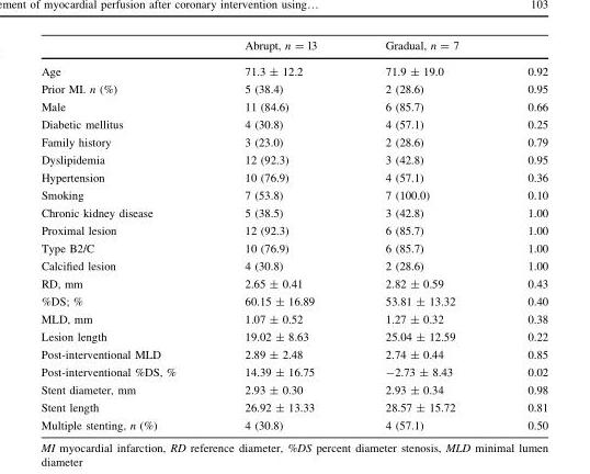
<table><thead><tr><td></td><td>Abrupt, n = l3</td><td>Gradual, n = 7</td><td></td></tr></thead><tbody><tr><td>Age</td><td>71.3 ± 12.2</td><td>71.9 ± 19.0</td><td>0.92</td></tr><tr><td>Prior MI. n (%)</td><td>5 (38.4)</td><td>2 (28.6)</td><td>0.95</td></tr><tr><td>Male</td><td>11 (84.6)</td><td>6 (85.7)</td><td>0.66</td></tr><tr><td>Diabetic mellitus</td><td>4 (30.8)</td><td>4 (57.1)</td><td>0.25</td></tr><tr><td>Family history</td><td>3 (23.0)</td><td>2 (28.6)</td><td>0.79</td></tr><tr><td>Dyslipidemia</td><td>12 (92.3)</td><td>3 (42.8)</td><td>0.95</td></tr><tr><td>Hypertension</td><td>10 (76.9)</td><td>4 (57.1)</td><td>0.36</td></tr><tr><td>Smoking</td><td>7 (53.8)</td><td>7 (100.0)</td><td>0.10</td></tr><tr><td>Chronic kidney disease</td><td>5 (38.5)</td><td>3 (42.8)</td><td>1.00</td></tr><tr><td>Proximal lesion</td><td>12 (92.3)</td><td>6 (85.7)</td><td>1.00</td></tr><tr><td>Type B2/C</td><td>10 (76.9)</td><td>6 (85.7)</td><td>1.00</td></tr><tr><td>Calcified lesion</td><td>4 (30.8)</td><td>2 (28.6)</td><td>1.00</td></tr><tr><td>RD, mm</td><td>2.65 ± 0.41</td><td>2.82 ± 0.59</td><td>0.43</td></tr><tr><td>%DS; %</td><td>60.15 ± 16.89</td><td>53.81 ± 13.32</td><td>0.40</td></tr><tr><td>MLD, mm</td><td>1.07 ± 0.52</td><td>1.27 ± 0.32</td><td>0.38</td></tr><tr><td>Lesion length</td><td>19.02 ± 8.63</td><td>25.04 ± 12.59</td><td>0.22</td></tr><tr><td>Post-interventional MLD</td><td>2.89 ± 2.48</td><td>2.74 ± 0.44</td><td>0.85</td></tr><tr><td>Post-interventional %DS, %</td><td>14.39 ± 16.75</td><td>-2.73 ± 8.43</td><td>0.02</td></tr><tr><td>Stent diameter, mm</td><td>2.93 ± 0.30</td><td>2.93 ± 0.34</td><td>0.98</td></tr><tr><td>Stent length</td><td>26.92 ± 13.33</td><td>28.57 ± 15.72</td><td>0.81</td></tr><tr><td>Multiple stenting, n (%)</td><td>4 (30.8)</td><td>4 (57.1)</td><td>0.50</td></tr></tbody></table>